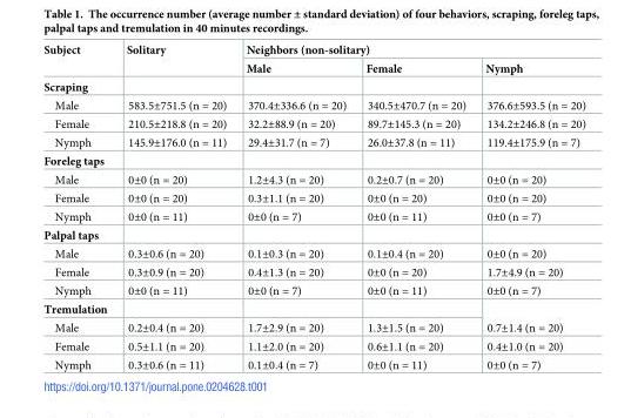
<table><thead><tr><td rowspan="2">Subject</td><td rowspan="2">Solitary</td><td colspan="3">Neighbors (non-solitary)</td></tr><tr><td>Male</td><td>Female</td><td>Nymph</td></tr></thead><tbody><tr><td colspan="5">Scraping</td></tr><tr><td>Male</td><td>583.5±751.5 (n = 20)</td><td>370.4±336.6 (n = 20)</td><td>340.5±470.7 (n = 20)</td><td>376.6±593.5 (n = 20)</td></tr><tr><td>Female</td><td>210.5±218.8 (n = 20)</td><td>32.2±88.9 (n = 20)</td><td>89.7±145.3 (n = 20)</td><td>134.2±246.8 (n = 20)</td></tr><tr><td>Nymph</td><td>145.9±176.0 (n = 11)</td><td>29.4±31.7 (n = 7)</td><td>26.0±37.8 (n = 11)</td><td>119.4±175.9 (n = 7)</td></tr><tr><td colspan="5">Foreleg taps</td></tr><tr><td>Male</td><td>0±0 (n = 20)</td><td>1.2±4.3 (n = 20)</td><td>0.2±0.7 (n = 20)</td><td>0±0 (n = 20)</td></tr><tr><td>Female</td><td>0±0 (n = 20)</td><td>0.3±1.1 (n = 20)</td><td>0±0 (n = 20)</td><td>0±0 (n = 20)</td></tr><tr><td>Nymph</td><td>0±0 (n = 11)</td><td>0±0 (n = 7)</td><td>0±0 (n = 11)</td><td>0±0 (n = 7)</td></tr><tr><td colspan="5">Palpal taps</td></tr><tr><td>Male</td><td>0.3±0.6 (n = 20)</td><td>0.1±0.3 (n = 20)</td><td>0.1±0.4 (n = 20)</td><td>0±0 (n = 20)</td></tr><tr><td>Female</td><td>0.3±0.9 (n = 20)</td><td>0.4±1.3 (n = 20)</td><td>0±0 (n = 20)</td><td>1.7±4.9 (n = 20)</td></tr><tr><td>Nymph</td><td>0±0 (n = 11)</td><td>0±0 (n = 7)</td><td>0±0 (n = 11)</td><td>0±0 (n = 7)</td></tr><tr><td colspan="5">Tremulation</td></tr><tr><td>Male</td><td>0.2±0.4 (n = 20)</td><td>1.7±2.9 (n = 20)</td><td>1.3±1.5 (n = 20)</td><td>0.7±1.4 (n = 20)</td></tr><tr><td>Female</td><td>0.5±1.1 (n = 20)</td><td>1.1±2.0 (n = 20)</td><td>0.6±1.1 (n = 20)</td><td>0.4±1.0 (n = 20)</td></tr><tr><td>Nymph</td><td>0.3±0.6 (n = 11)</td><td>0.1±0.4 (n = 7)</td><td>0±0 (n = 11)</td><td>0±0 (n = 7)</td></tr></tbody></table>